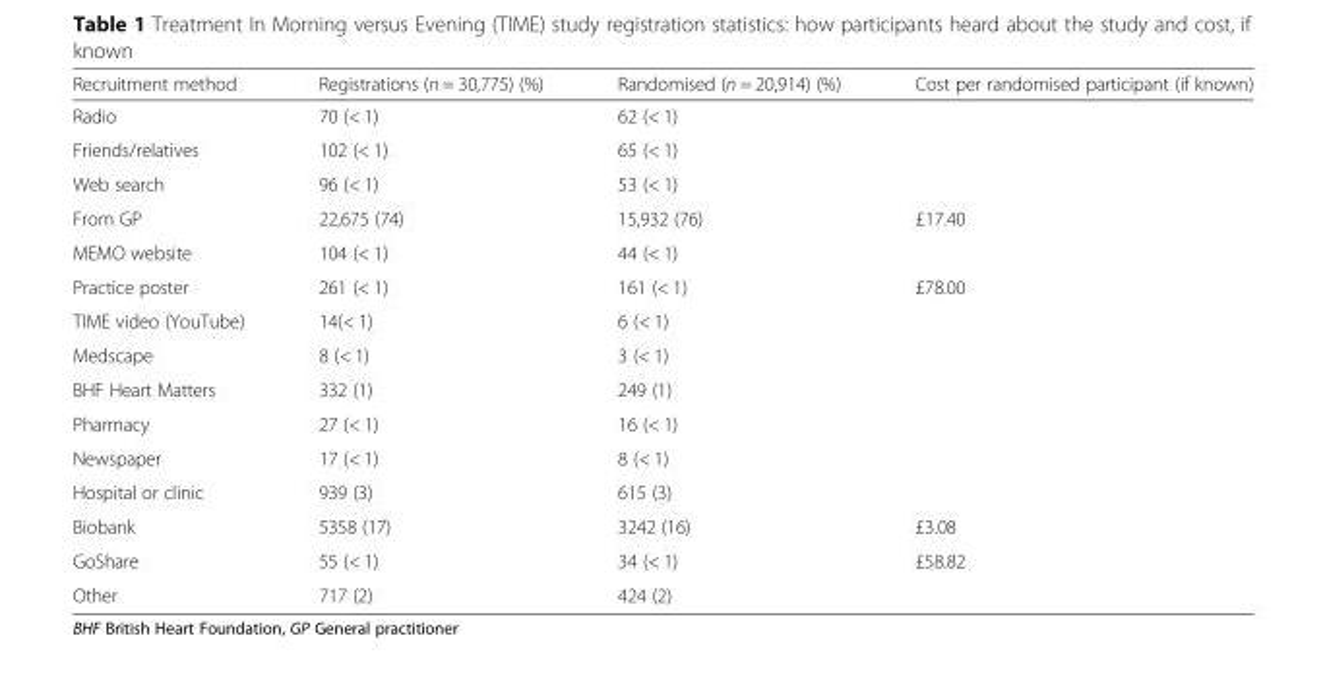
<table><thead><tr><td>Recruitment method</td><td>Registrations (n = 30,775) (%)</td><td>Randomised (n = 20,914) (%)</td><td>Cost per randomised participant (if known)</td></tr></thead><tbody><tr><td>Radio</td><td>70 (&lt; 1)</td><td>62 (&lt; 1)</td><td></td></tr><tr><td>Friends/relatives</td><td>102 (&lt; 1)</td><td>65 (&lt; 1)</td><td></td></tr><tr><td>Web search</td><td>96 (&lt; 1)</td><td>53 (&lt; 1)</td><td></td></tr><tr><td>From GP</td><td>22,675 (74)</td><td>15,932 (76)</td><td>£17.40</td></tr><tr><td>MEMO website</td><td>104 (&lt; 1)</td><td>44 (&lt; 1)</td><td></td></tr><tr><td>Practice poster</td><td>261 (&lt; 1)</td><td>161 (&lt; 1)</td><td>£78.00</td></tr><tr><td>TIME video (YouTube)</td><td>14(&lt; 1)</td><td>6 (&lt; 1)</td><td></td></tr><tr><td>Medscape</td><td>8 (&lt; 1)</td><td>3 (&lt; 1)</td><td></td></tr><tr><td>BHF Heart Matters</td><td>332 (1)</td><td>249 (1)</td><td></td></tr><tr><td>Pharmacy</td><td>27 (&lt; 1)</td><td>16 (&lt; 1)</td><td></td></tr><tr><td>Newspaper</td><td>17 (&lt; 1)</td><td>8 (&lt; 1)</td><td></td></tr><tr><td>Hospital or clinic</td><td>939 (3)</td><td>615 (3)</td><td></td></tr><tr><td>Biobank</td><td>5358 (17)</td><td>3242 (16)</td><td>£3.08</td></tr><tr><td>GoShare</td><td>55 (&lt; 1)</td><td>34 (&lt; 1)</td><td>£58.82</td></tr><tr><td>Other</td><td>717 (2)</td><td>424 (2)</td><td></td></tr></tbody></table>